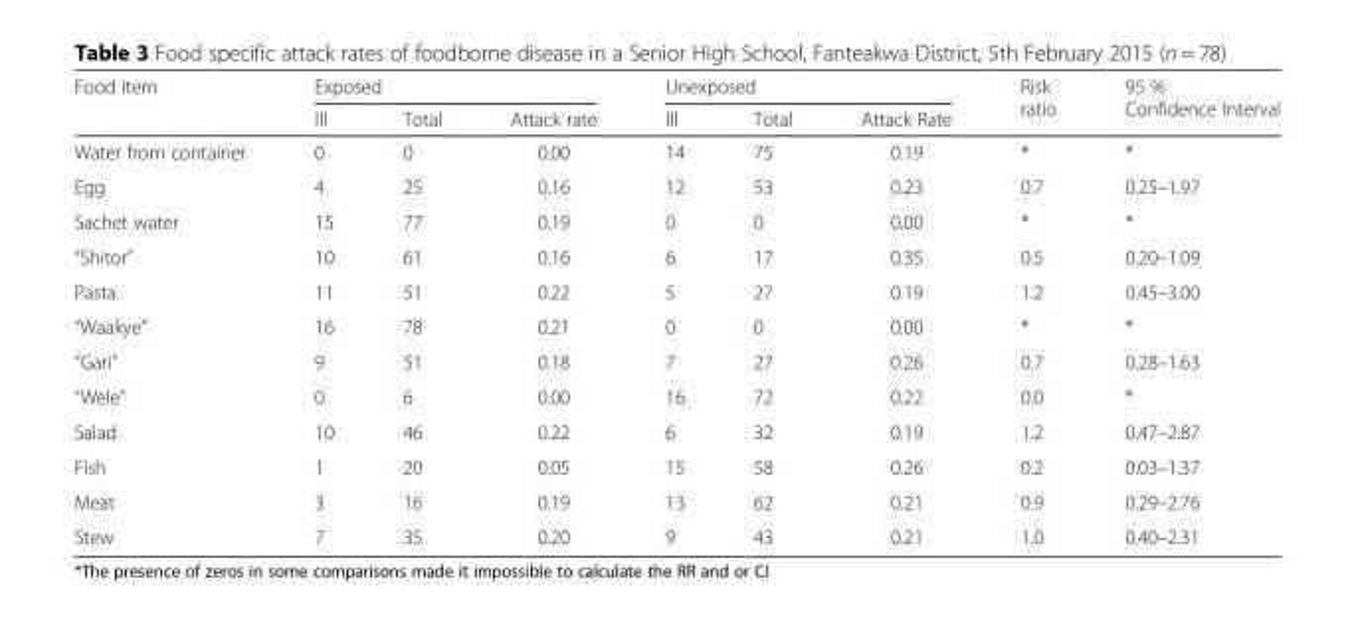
<table><thead><tr><td rowspan="2">Food item</td><td colspan="3">Exposed</td><td colspan="3">Unexposed</td><td rowspan="2">Risk ratio</td><td rowspan="2">95 % Confidence Interval</td></tr><tr><td>Ill</td><td>Total</td><td>Attack rate</td><td>Ill</td><td>Total</td><td>Attack Rate</td></tr></thead><tbody><tr><td>Water from container</td><td>0</td><td>0</td><td>0.00</td><td>14</td><td>75</td><td>0.19</td><td>*</td><td>*</td></tr><tr><td>Egg</td><td>4</td><td>25</td><td>0.16</td><td>12</td><td>53</td><td>0.23</td><td>0.7</td><td>0.25–1.97</td></tr><tr><td>Sachet water</td><td>15</td><td>77</td><td>0.19</td><td>0</td><td>0</td><td>0.00</td><td>*</td><td>*</td></tr><tr><td>“Shitor”</td><td>10</td><td>61</td><td>0.16</td><td>6</td><td>17</td><td>0.35</td><td>0.5</td><td>0.20–1.09</td></tr><tr><td>Pasta</td><td>11</td><td>51</td><td>0.22</td><td>5</td><td>27</td><td>0.19</td><td>1.2</td><td>0.45–3.00</td></tr><tr><td>“Waakye”</td><td>16</td><td>78</td><td>0.21</td><td>0</td><td>0</td><td>0.00</td><td>*</td><td>*</td></tr><tr><td>“Gari”</td><td>9</td><td>51</td><td>0.18</td><td>7</td><td>27</td><td>0.26</td><td>0.7</td><td>0.28–1.63</td></tr><tr><td>“Wele”</td><td>0</td><td>6</td><td>0.00</td><td>16</td><td>72</td><td>0.22</td><td>0.0</td><td>*</td></tr><tr><td>Salad</td><td>10</td><td>46</td><td>0.22</td><td>6</td><td>32</td><td>0.19</td><td>1.2</td><td>0.47–2.87</td></tr><tr><td>Fish</td><td>1</td><td>20</td><td>0.05</td><td>15</td><td>58</td><td>0.26</td><td>0.2</td><td>0.03–1.37</td></tr><tr><td>Meat</td><td>3</td><td>16</td><td>0.19</td><td>13</td><td>62</td><td>0.21</td><td>0.9</td><td>0.29–2.76</td></tr><tr><td>Stew</td><td>7</td><td>35</td><td>0.20</td><td>9</td><td>43</td><td>0.21</td><td>1.0</td><td>0.40–2.31</td></tr></tbody></table>